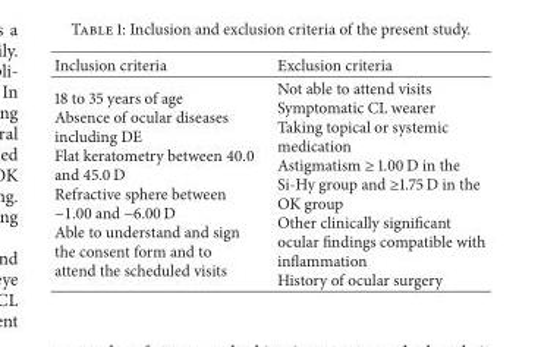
<table><thead><tr><td>Inclusion criteria</td><td>Exclusion criteria</td></tr></thead><tbody><tr><td>18 to 35 years of age Absence of ocular diseases including DE Flat keratometry between 40.0 and 45.0 D Refractive sphere between −1.00 and −6.00 D Able to understand and sign the consent form and to attend the scheduled visits</td><td>Not able to attend visits Symptomatic CL wearer Taking topical or systemic medication Astigmatism ≥ 1.00 D in the Si-Hy group and ≥1.75 D in the OK group Other clinically significant ocular findings compatible with inflammation History of ocular surgery</td></tr></tbody></table>